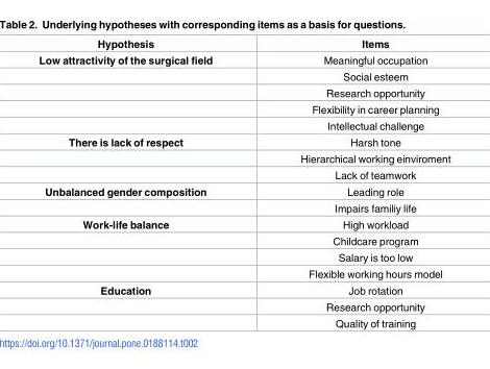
<table><thead><tr><td>Hypothesis</td><td>Items</td></tr></thead><tbody><tr><td rowspan="5">Low attractivity of the surgical field</td><td>Meaningful occupation</td></tr><tr><td>Social esteem</td></tr><tr><td>Research opportunity</td></tr><tr><td>Flexibility in career planning</td></tr><tr><td>Intellectual challenge</td></tr><tr><td rowspan="3">There is lack of respect</td><td>Harsh tone</td></tr><tr><td>Hierarchical working einviroment</td></tr><tr><td>Lack of teamwork</td></tr><tr><td rowspan="2">Unbalanced gender composition</td><td>Leading role</td></tr><tr><td>Impairs familiy life</td></tr><tr><td rowspan="4">Work-life balance</td><td>High workload</td></tr><tr><td>Childcare program</td></tr><tr><td>Salary is too low</td></tr><tr><td>Flexible working hours model</td></tr><tr><td rowspan="3">Education</td><td>Job rotation</td></tr><tr><td>Research opportunity</td></tr><tr><td>Quality of training</td></tr></tbody></table>